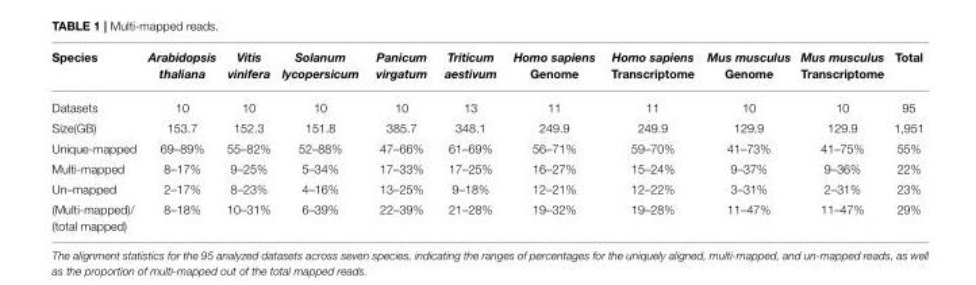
<table><thead><tr><td>Species</td><td>Arabidopsis thaliana</td><td>Vitis vinifera</td><td>Solanum lycopersicum</td><td>Panicum virgatum</td><td>Triticum aestivum</td><td>Homo sapiens Genome</td><td>Homo sapiens Transcriptome</td><td>Mus musculus Genome</td><td>Mus musculus Transcriptome</td><td>Total</td></tr></thead><tbody><tr><td>Datasets</td><td>10</td><td>10</td><td>10</td><td>10</td><td>13</td><td>11</td><td>11</td><td>10</td><td>10</td><td>95</td></tr><tr><td>Size(GB)</td><td>153.7</td><td>152.3</td><td>151.8</td><td>385.7</td><td>348.1</td><td>249.9</td><td>249.9</td><td>129.9</td><td>129.9</td><td>1,951</td></tr><tr><td>Unique-mapped</td><td>69–89%</td><td>55–82%</td><td>52–88%</td><td>47–66%</td><td>61–69%</td><td>56–71%</td><td>59–70%</td><td>41–73%</td><td>41–75%</td><td>55%</td></tr><tr><td>Multi-mapped</td><td>8–17%</td><td>9–25%</td><td>5–34%</td><td>17–33%</td><td>17–25%</td><td>16–27%</td><td>15–24%</td><td>9–37%</td><td>9–36%</td><td>22%</td></tr><tr><td>Un–mapped</td><td>2–17%</td><td>8–23%</td><td>4–16%</td><td>13–25%</td><td>9–18%</td><td>12–21%</td><td>12–22%</td><td>3–31%</td><td>2–31%</td><td>23%</td></tr><tr><td>(Multi-mapped)/ (total mapped)</td><td>8–18%</td><td>10–31%</td><td>6–39%</td><td>22–39%</td><td>21–28%</td><td>19–32%</td><td>19–28%</td><td>11–47%</td><td>11–47%</td><td>29%</td></tr></tbody></table>